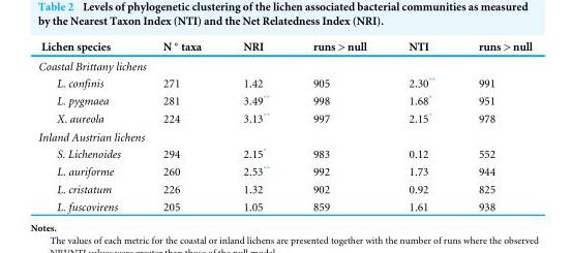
<table><thead><tr><td>Lichen species</td><td>N ◦ taxa</td><td>NRI</td><td>runs &gt; null</td><td>NTI</td><td>runs &gt; null</td></tr></thead><tbody><tr><td colspan="6">Coastal Brittany lichens</td></tr><tr><td>L. confinis</td><td>271</td><td>1.42</td><td>905</td><td>2.30**</td><td>991</td></tr><tr><td>L. pygmaea</td><td>281</td><td>3.49**</td><td>998</td><td>1.68*</td><td>951</td></tr><tr><td>X. aureola</td><td>224</td><td>3.13**</td><td>997</td><td>2.15*</td><td>978</td></tr><tr><td colspan="6">Inland Austrian lichens</td></tr><tr><td>S. Lichenoides</td><td>294</td><td>2.15*</td><td>983</td><td>0.12</td><td>552</td></tr><tr><td>L. auriforme</td><td>260</td><td>2.53**</td><td>992</td><td>1.73</td><td>944</td></tr><tr><td>L. cristatum</td><td>226</td><td>1.32</td><td>902</td><td>0.92</td><td>825</td></tr><tr><td>L. fuscovirens</td><td>205</td><td>1.05</td><td>859</td><td>1.61</td><td>938</td></tr></tbody></table>